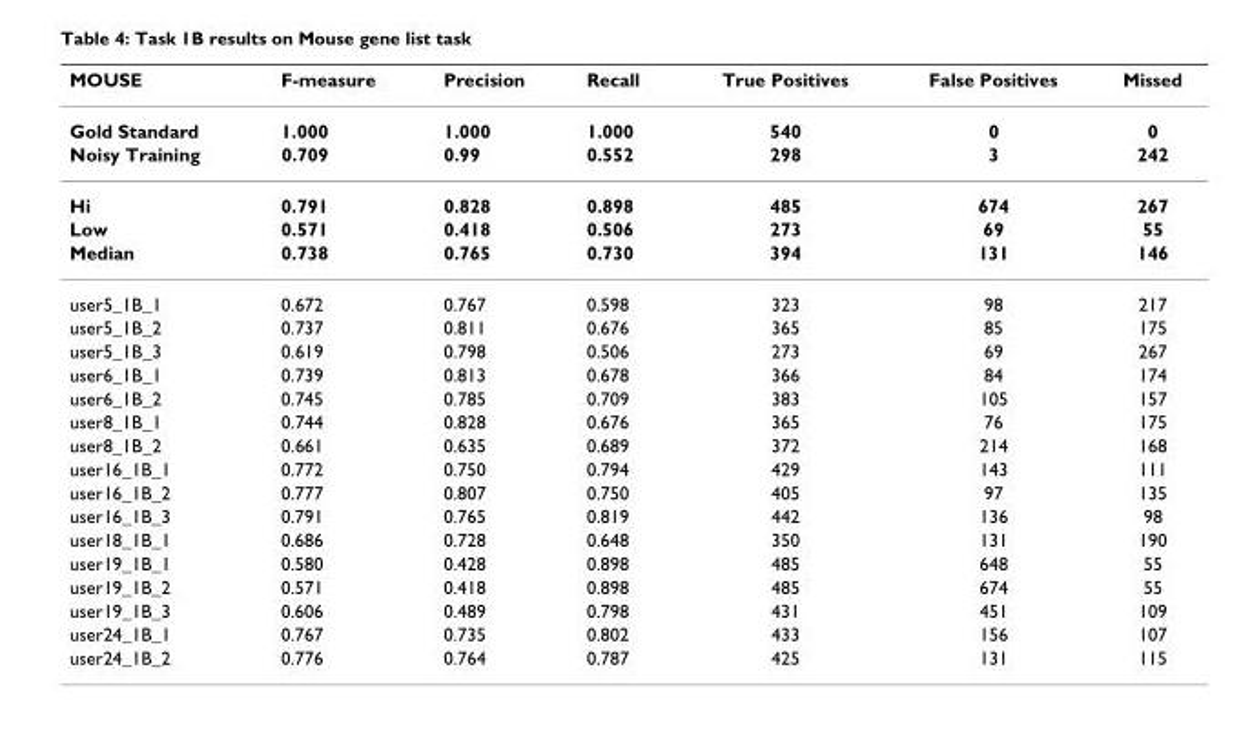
<table><thead><tr><td>MOUSE</td><td>F-measure</td><td>Precision</td><td>Recall</td><td>True Positives</td><td>False Positives</td><td>Missed</td></tr></thead><tbody><tr><td>Gold Standard</td><td>1.000</td><td>1.000</td><td>1.000</td><td>540</td><td>0</td><td>0</td></tr><tr><td>Noisy Training</td><td>0.709</td><td>0.99</td><td>0.552</td><td>298</td><td>3</td><td>242</td></tr><tr><td>Hi</td><td>0.791</td><td>0.828</td><td>0.898</td><td>485</td><td>674</td><td>267</td></tr><tr><td>Low</td><td>0.571</td><td>0.418</td><td>0.506</td><td>273</td><td>69</td><td>55</td></tr><tr><td>Median</td><td>0.738</td><td>0.765</td><td>0.730</td><td>394</td><td>131</td><td>146</td></tr><tr><td>user5_1B_1</td><td>0.672</td><td>0.767</td><td>0.598</td><td>323</td><td>98</td><td>217</td></tr><tr><td>user5_1B_2</td><td>0.737</td><td>0.811</td><td>0.676</td><td>365</td><td>85</td><td>175</td></tr><tr><td>user5_1B_3</td><td>0.619</td><td>0.798</td><td>0.506</td><td>273</td><td>69</td><td>267</td></tr><tr><td>user6_1B_1</td><td>0.739</td><td>0.813</td><td>0.678</td><td>366</td><td>84</td><td>174</td></tr><tr><td>user6_1B_2</td><td>0.745</td><td>0.785</td><td>0.709</td><td>383</td><td>105</td><td>157</td></tr><tr><td>user8_1B_1</td><td>0.744</td><td>0.828</td><td>0.676</td><td>365</td><td>76</td><td>175</td></tr><tr><td>user8_1B_2</td><td>0.661</td><td>0.635</td><td>0.689</td><td>372</td><td>214</td><td>168</td></tr><tr><td>user16_1B_1</td><td>0.772</td><td>0.750</td><td>0.794</td><td>429</td><td>143</td><td>111</td></tr><tr><td>user16_1B_2</td><td>0.777</td><td>0.807</td><td>0.750</td><td>405</td><td>97</td><td>135</td></tr><tr><td>user16_1B_3</td><td>0.791</td><td>0.765</td><td>0.819</td><td>442</td><td>136</td><td>98</td></tr><tr><td>user18_1B_1</td><td>0.686</td><td>0.728</td><td>0.648</td><td>350</td><td>131</td><td>190</td></tr><tr><td>user19_1B_1</td><td>0.580</td><td>0.428</td><td>0.898</td><td>485</td><td>648</td><td>55</td></tr><tr><td>user19_1B_2</td><td>0.571</td><td>0.418</td><td>0.898</td><td>485</td><td>674</td><td>55</td></tr><tr><td>user19_1B_3</td><td>0.606</td><td>0.489</td><td>0.798</td><td>431</td><td>451</td><td>109</td></tr><tr><td>user24_1B_1</td><td>0.767</td><td>0.735</td><td>0.802</td><td>433</td><td>156</td><td>107</td></tr><tr><td>user24_1B_2</td><td>0.776</td><td>0.764</td><td>0.787</td><td>425</td><td>131</td><td>115</td></tr></tbody></table>